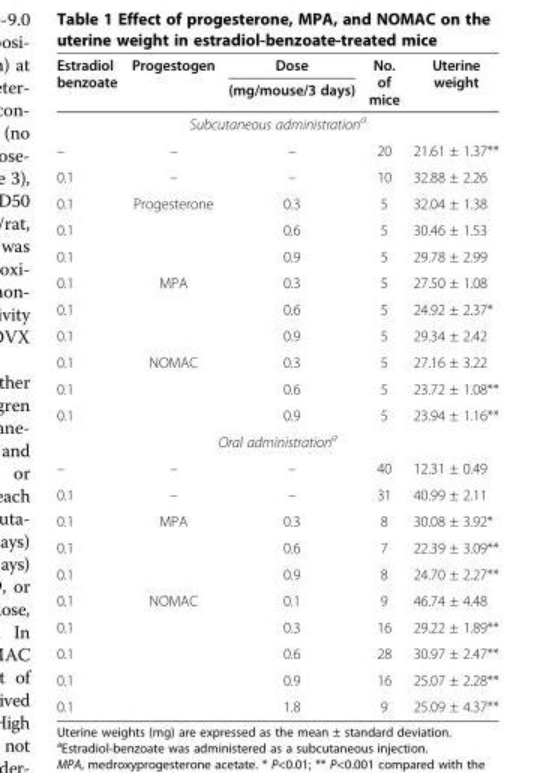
<table><thead><tr><td rowspan="2">Estradiol benzoate</td><td rowspan="2">Progestogen</td><td rowspan="2">Dose (mg/mouse/3 days)</td><td rowspan="2">No. of mice</td><td rowspan="2">Uterine weight</td></tr><tr></tr></thead><tbody><tr><td colspan="5">Subcutaneous administration<sup>a</sup></td></tr><tr><td>–</td><td>–</td><td>–</td><td>20</td><td>21.61 ± 1.37**</td></tr><tr><td>0.1</td><td>–</td><td>–</td><td>10</td><td>32.88 ± 2.26</td></tr><tr><td>0.1</td><td rowspan="3">Progesterone</td><td>0.3</td><td>5</td><td>32.04 ± 1.38</td></tr><tr><td>0.1</td><td>0.6</td><td>5</td><td>30.46 ± 1.53</td></tr><tr><td>0.1</td><td>0.9</td><td>5</td><td>29.78 ± 2.99</td></tr><tr><td>0.1</td><td rowspan="3">MPA</td><td>0.3</td><td>5</td><td>27.50 ± 1.08</td></tr><tr><td>0.1</td><td>0.6</td><td>5</td><td>24.92 ± 2.37*</td></tr><tr><td>0.1</td><td>0.9</td><td>5</td><td>29.34 ± 2.42</td></tr><tr><td>0.1</td><td rowspan="3">NOMAC</td><td>0.3</td><td>5</td><td>27.16 ± 3.22</td></tr><tr><td>0.1</td><td>0.6</td><td>5</td><td>23.72 ± 1.08**</td></tr><tr><td>0.1</td><td>0.9</td><td>5</td><td>23.94 ± 1.16**</td></tr><tr><td colspan="5">Oral administration<sup>a</sup></td></tr><tr><td>–</td><td>–</td><td>–</td><td>40</td><td>12.31 ± 0.49</td></tr><tr><td>0.1</td><td>–</td><td>–</td><td>31</td><td>40.99 ± 2.11</td></tr><tr><td>0.1</td><td rowspan="3">MPA</td><td>0.3</td><td>8</td><td>30.08 ± 3.92*</td></tr><tr><td>0.1</td><td>0.6</td><td>7</td><td>22.39 ± 3.09**</td></tr><tr><td>0.1</td><td>0.9</td><td>8</td><td>24.70 ± 2.27**</td></tr><tr><td>0.1</td><td rowspan="5">NOMAC</td><td>0.1</td><td>9</td><td>46.74 ± 4.48</td></tr><tr><td>0.1</td><td>0.3</td><td>16</td><td>29.22 ± 1.89**</td></tr><tr><td>0.1</td><td>0.6</td><td>28</td><td>30.97 ± 2.47**</td></tr><tr><td>0.1</td><td>0.9</td><td>16</td><td>25.07 ± 2.28**</td></tr><tr><td>0.1</td><td>1.8</td><td>9</td><td>25.09 ± 4.37**</td></tr></tbody></table>